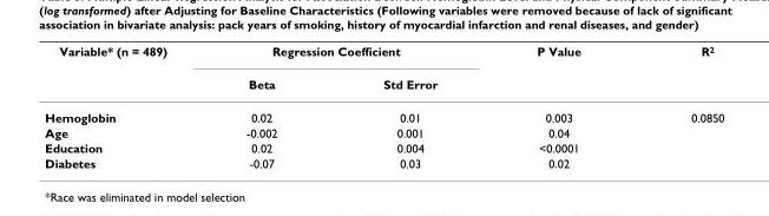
<table><thead><tr><td rowspan="2">Variable* (n = 489)</td><td colspan="2">Regression Coefficient</td><td rowspan="2">P Value</td><td rowspan="2">R2</td></tr><tr><td>Beta</td><td>Std Error</td></tr></thead><tbody><tr><td>Hemoglobin</td><td>0.02</td><td>0.01</td><td>0.003</td><td>0.0850</td></tr><tr><td>Age</td><td>-0.002</td><td>0.001</td><td>0.04</td><td></td></tr><tr><td>Education</td><td>0.02</td><td>0.004</td><td>&lt;0.0001</td><td></td></tr><tr><td>Diabetes</td><td>-0.07</td><td>0.03</td><td>0.02</td><td></td></tr></tbody></table>